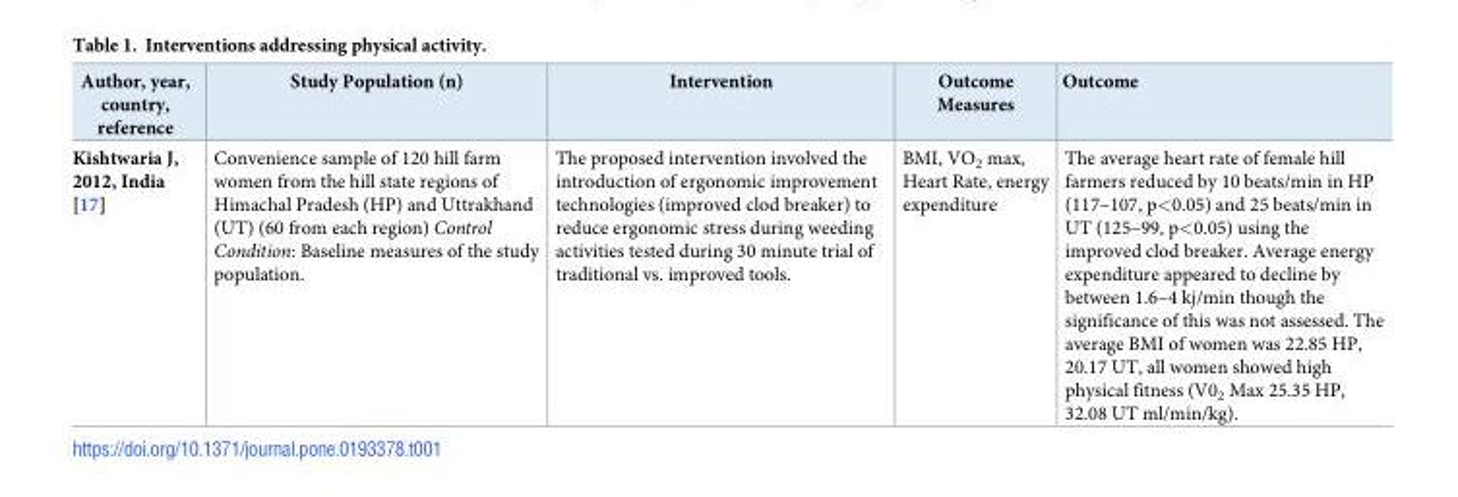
<table><thead><tr><td>Author, year, country, reference</td><td>Study Population (n)</td><td>Intervention</td><td>Outcome Measures</td><td>Outcome</td></tr></thead><tbody><tr><td>Kishtwaria J, 2012, India [17]</td><td>Convenience sample of 120 hill farm women from the hill state regions of Himachal Pradesh (HP) and Uttrakhand (UT) (60 from each region) Control Condition: Baseline measures of the study population.</td><td>The proposed intervention involved the introduction of ergonomic improvement technologies (improved clod breaker) to reduce ergonomic stress during weeding activities tested during 30 minute trial of traditional vs. improved tools.</td><td>BMI, VO<sub>2</sub> max, Heart Rate, energy expenditure</td><td>The average heart rate of female hill farmers reduced by 10 beats/min in HP (117–107, p&lt;0.05) and 25 beats/min in UT (125–99, p&lt;0.05) using the improved clod breaker. Average energy expenditure appeared to decline by between 1.6–4 kj/min though the significance of this was not assessed. The average BMI of women was 22.85 HP, 20.17 UT, all women showed high physical fitness (V0<sub>2</sub> Max 25.35 HP, 32.08 UT ml/min/kg).</td></tr></tbody></table>